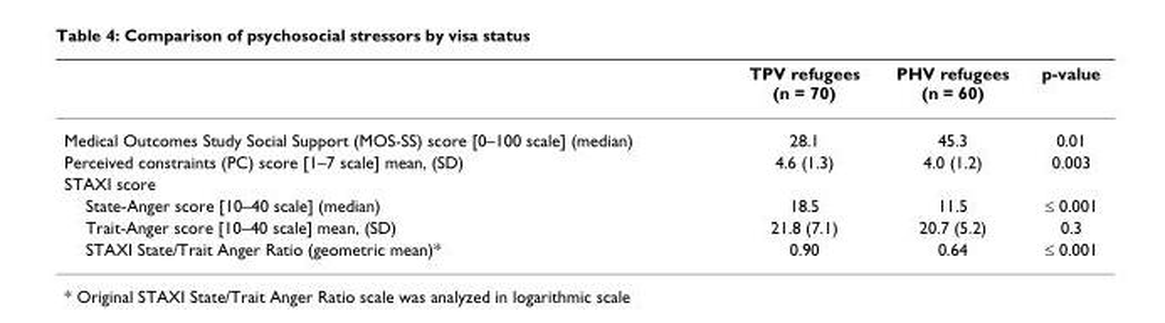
<table><thead><tr><td></td><td>TPV refugees (n = 70)</td><td>PHV refugees (n = 60)</td><td>p-value</td></tr></thead><tbody><tr><td>Medical Outcomes Study Social Support (MOS-SS) score [0–100 scale] (median)</td><td>28.1</td><td>45.3</td><td>0.01</td></tr><tr><td>Perceived constraints (PC) score [1–7 scale] mean, (SD)</td><td>4.6 (1.3)</td><td>4.0 (1.2)</td><td>0.003</td></tr><tr><td colspan="4">STAXI score</td></tr><tr><td>State-Anger score [10–40 scale] (median)</td><td>18.5</td><td>11.5</td><td>≤ 0.001</td></tr><tr><td>Trait-Anger score [10–40 scale] mean, (SD)</td><td>21.8 (7.1)</td><td>20.7 (5.2)</td><td>0.3</td></tr><tr><td>STAXI State/Trait Anger Ratio (geometric mean)*</td><td>0.90</td><td>0.64</td><td>≤ 0.001</td></tr></tbody></table>